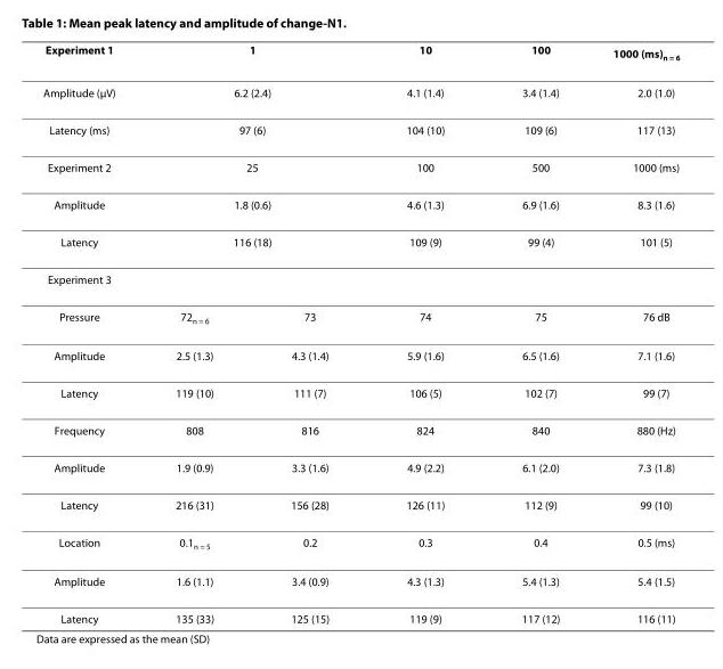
<table><thead><tr><td>Experiment 1</td><td colspan="2">1</td><td>10</td><td>100</td><td>1000 (ms)<sub>n = 6</sub></td></tr></thead><tbody><tr><td>Amplitude (μV)</td><td colspan="2">6.2 (2.4)</td><td>4.1 (1.4)</td><td>3.4 (1.4)</td><td>2.0 (1.0)</td></tr><tr><td>Latency (ms)</td><td colspan="2">97 (6)</td><td>104 (10)</td><td>109 (6)</td><td>117 (13)</td></tr><tr><td>Experiment 2</td><td colspan="2">25</td><td>100</td><td>500</td><td>1000 (ms)</td></tr><tr><td>Amplitude</td><td colspan="2">1.8 (0.6)</td><td>4.6 (1.3)</td><td>6.9 (1.6)</td><td>8.3 (1.6)</td></tr><tr><td>Latency</td><td colspan="2">116 (18)</td><td>109 (9)</td><td>99 (4)</td><td>101 (5)</td></tr><tr><td colspan="6">Experiment 3</td></tr><tr><td>Pressure</td><td>72<sub>n = 6</sub></td><td>73</td><td>74</td><td>75</td><td>76 dB</td></tr><tr><td>Amplitude</td><td>2.5 (1.3)</td><td>4.3 (1.4)</td><td>5.9 (1.6)</td><td>6.5 (1.6)</td><td>7.1 (1.6)</td></tr><tr><td>Latency</td><td>119 (10)</td><td>111 (7)</td><td>106 (5)</td><td>102 (7)</td><td>99 (7)</td></tr><tr><td>Frequency</td><td>808</td><td>816</td><td>824</td><td>840</td><td>880 (Hz)</td></tr><tr><td>Amplitude</td><td>1.9 (0.9)</td><td>3.3 (1.6)</td><td>4.9 (2.2)</td><td>6.1 (2.0)</td><td>7.3 (1.8)</td></tr><tr><td>Latency</td><td>216 (31)</td><td>156 (28)</td><td>126 (11)</td><td>112 (9)</td><td>99 (10)</td></tr><tr><td>Location</td><td>0.1<sub>n = 5</sub></td><td>0.2</td><td>0.3</td><td>0.4</td><td>0.5 (ms)</td></tr><tr><td>Amplitude</td><td>1.6 (1.1)</td><td>3.4 (0.9)</td><td>4.3 (1.3)</td><td>5.4 (1.3)</td><td>5.4 (1.5)</td></tr><tr><td>Latency</td><td>135 (33)</td><td>125 (15)</td><td>119 (9)</td><td>117 (12)</td><td>116 (11)</td></tr></tbody></table>